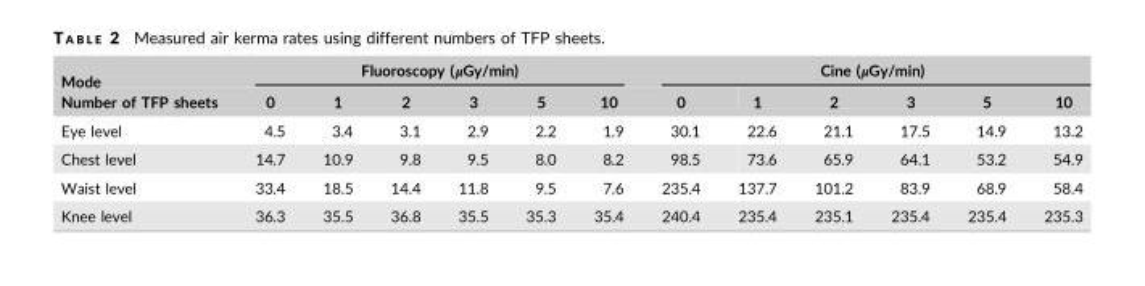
<table><thead><tr><td rowspan="2">Mode Number of TFP sheets</td><td colspan="6">Fluoroscopy (μGy/min)</td><td colspan="6">Cine (μGy/min)</td></tr><tr><td>0</td><td>1</td><td>2</td><td>3</td><td>5</td><td>10</td><td>0</td><td>1</td><td>2</td><td>3</td><td>5</td><td>10</td></tr></thead><tbody><tr><td>Eye level</td><td>4.5</td><td>3.4</td><td>3.1</td><td>2.9</td><td>2.2</td><td>1.9</td><td>30.1</td><td>22.6</td><td>21.1</td><td>17.5</td><td>14.9</td><td>13.2</td></tr><tr><td>Chest level</td><td>14.7</td><td>10.9</td><td>9.8</td><td>9.5</td><td>8.0</td><td>8.2</td><td>98.5</td><td>73.6</td><td>65.9</td><td>64.1</td><td>53.2</td><td>54.9</td></tr><tr><td>Waist level</td><td>33.4</td><td>18.5</td><td>14.4</td><td>11.8</td><td>9.5</td><td>7.6</td><td>235.4</td><td>137.7</td><td>101.2</td><td>83.9</td><td>68.9</td><td>58.4</td></tr><tr><td>Knee level</td><td>36.3</td><td>35.5</td><td>36.8</td><td>35.5</td><td>35.3</td><td>35.4</td><td>240.4</td><td>235.4</td><td>235.1</td><td>235.4</td><td>235.4</td><td>235.3</td></tr></tbody></table>